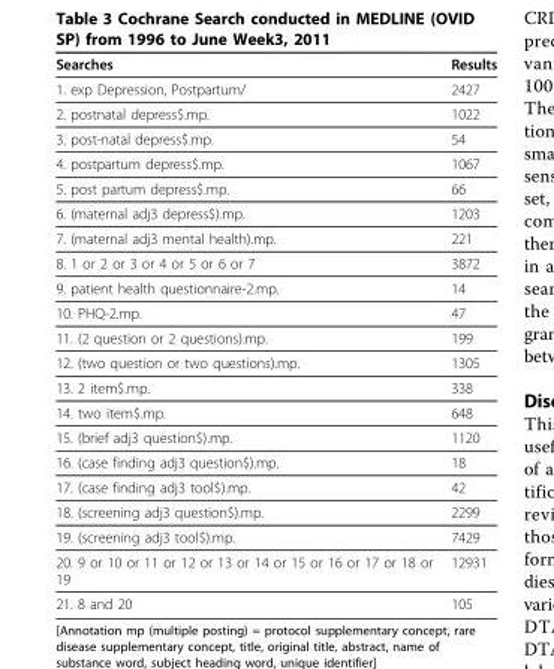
<table><thead><tr><td>Searches</td><td>Results</td></tr></thead><tbody><tr><td>1. exp Depression, Postpartum/</td><td>2427</td></tr><tr><td>2. postnatal depress$.mp.</td><td>1022</td></tr><tr><td>3. post-natal depress$.mp.</td><td>54</td></tr><tr><td>4. postpartum depress$.mp.</td><td>1067</td></tr><tr><td>5. post partum depress$.mp.</td><td>66</td></tr><tr><td>6. (maternal adj3 depress$).mp.</td><td>1203</td></tr><tr><td>7. (maternal adj3 mental health).mp.</td><td>221</td></tr><tr><td>8. 1 or 2 or 3 or 4 or 5 or 6 or 7</td><td>3872</td></tr><tr><td>9. patient health questionnaire-2.mp.</td><td>14</td></tr><tr><td>10. PHQ-2.mp.</td><td>47</td></tr><tr><td>11. (2 question or 2 questions).mp.</td><td>199</td></tr><tr><td>12. (two question or two questions).mp.</td><td>1305</td></tr><tr><td>13. 2 item$.mp.</td><td>338</td></tr><tr><td>14. two item$.mp.</td><td>648</td></tr><tr><td>15. (brief adj3 question$).mp.</td><td>1120</td></tr><tr><td>16. (case finding adj3 question$).mp.</td><td>18</td></tr><tr><td>17. (case finding adj3 tool$).mp.</td><td>42</td></tr><tr><td>18. (screening adj3 question$).mp.</td><td>2299</td></tr><tr><td>19. (screening adj3 tool$).mp.</td><td>7429</td></tr><tr><td>20. 9 or 10 or 11 or 12 or 13 or 14 or 15 or 16 or 17 or 18 or 19</td><td>12931</td></tr><tr><td>21. 8 and 20</td><td>105</td></tr></tbody></table>